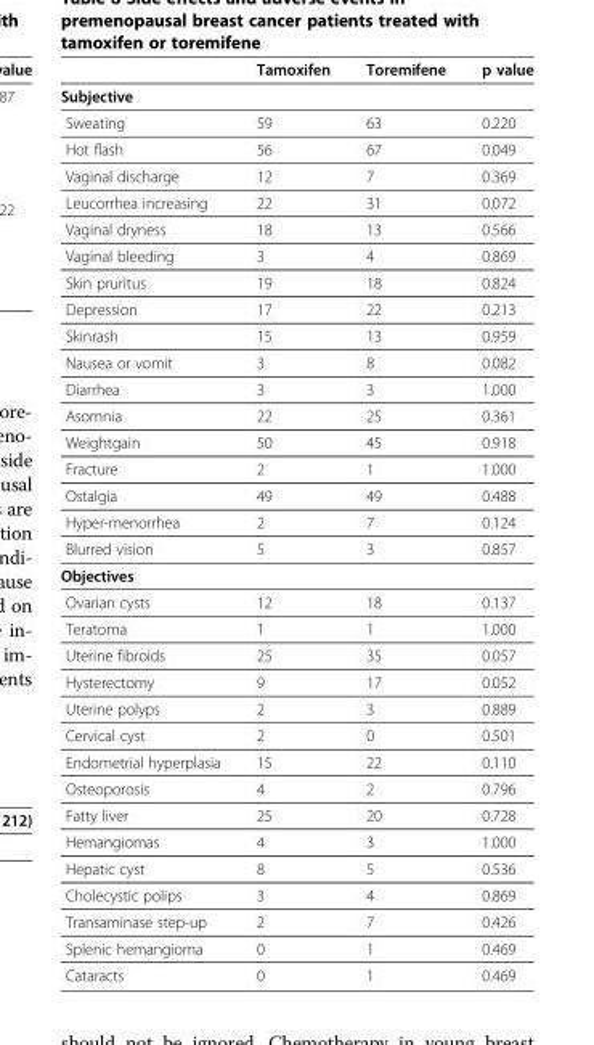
<table><thead><tr><td></td><td>Tamoxifen</td><td>Toremifene</td><td>p value</td></tr></thead><tbody><tr><td colspan="4">Subjective</td></tr><tr><td>Sweating</td><td>59</td><td>63</td><td>0.220</td></tr><tr><td>Hot flash</td><td>56</td><td>67</td><td>0.049</td></tr><tr><td>Vaginal discharge</td><td>12</td><td>7</td><td>0.369</td></tr><tr><td>Leucorrhea increasing</td><td>22</td><td>31</td><td>0.072</td></tr><tr><td>Vaginal dryness</td><td>18</td><td>13</td><td>0.566</td></tr><tr><td>Vaginal bleeding</td><td>3</td><td>4</td><td>0.869</td></tr><tr><td>Skin pruritus</td><td>19</td><td>18</td><td>0.824</td></tr><tr><td>Depression</td><td>17</td><td>22</td><td>0.213</td></tr><tr><td>Skinrash</td><td>15</td><td>13</td><td>0.959</td></tr><tr><td>Nausea or vomit</td><td>3</td><td>8</td><td>0.082</td></tr><tr><td>Diarrhea</td><td>3</td><td>3</td><td>1.000</td></tr><tr><td>Asomnia</td><td>22</td><td>25</td><td>0.361</td></tr><tr><td>Weightgain</td><td>50</td><td>45</td><td>0.918</td></tr><tr><td>Fracture</td><td>2</td><td>1</td><td>1.000</td></tr><tr><td>Ostalgia</td><td>49</td><td>49</td><td>0.488</td></tr><tr><td>Hyper-menorrhea</td><td>2</td><td>7</td><td>0.124</td></tr><tr><td>Blurred vision</td><td>5</td><td>3</td><td>0.857</td></tr><tr><td colspan="4">Objectives</td></tr><tr><td>Ovarian cysts</td><td>12</td><td>18</td><td>0.137</td></tr><tr><td>Teratoma</td><td>1</td><td>1</td><td>1.000</td></tr><tr><td>Uterine fibroids</td><td>25</td><td>35</td><td>0.057</td></tr><tr><td>Hysterectomy</td><td>9</td><td>17</td><td>0.052</td></tr><tr><td>Uterine polyps</td><td>2</td><td>3</td><td>0.889</td></tr><tr><td>Cervical cyst</td><td>2</td><td>0</td><td>0.501</td></tr><tr><td>Endometrial hyperplasia</td><td>15</td><td>22</td><td>0.110</td></tr><tr><td>Osteoporosis</td><td>4</td><td>2</td><td>0.796</td></tr><tr><td>Fatty liver</td><td>25</td><td>20</td><td>0.728</td></tr><tr><td>Hemangiomas</td><td>4</td><td>3</td><td>1.000</td></tr><tr><td>Hepatic cyst</td><td>8</td><td>5</td><td>0.536</td></tr><tr><td>Cholecystic polips</td><td>3</td><td>4</td><td>0.869</td></tr><tr><td>Transaminase step-up</td><td>2</td><td>7</td><td>0.426</td></tr><tr><td>Splenic hemangioma</td><td>0</td><td>1</td><td>0.469</td></tr><tr><td>Cataracts</td><td>0</td><td>1</td><td>0.469</td></tr></tbody></table>